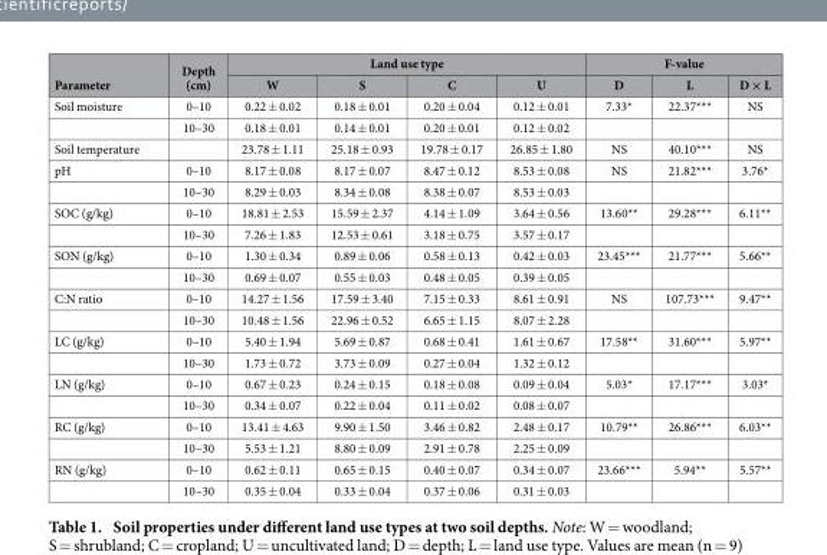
<table><thead><tr><td rowspan="2">Parameter</td><td rowspan="2">Depth (cm)</td><td colspan="4">Land use type</td><td colspan="3">F-value</td></tr><tr><td>W</td><td>S</td><td>C</td><td>U</td><td>D</td><td>L</td><td>D × L</td></tr></thead><tbody><tr><td rowspan="2">Soil moisture</td><td>0–10</td><td>0.22 ± 0.02</td><td>0.18 ± 0.01</td><td>0.20 ± 0.04</td><td>0.12 ± 0.01</td><td>7.33*</td><td>22.37***</td><td>NS</td></tr><tr><td>10–30</td><td>0.18 ± 0.01</td><td>0.14 ± 0.01</td><td>0.20 ± 0.01</td><td>0.12 ± 0.02</td><td></td><td></td><td></td></tr><tr><td>Soil temperature</td><td></td><td>23.78 ± 1.11</td><td>25.18 ± 0.93</td><td>19.78 ± 0.17</td><td>26.85 ± 1.80</td><td>NS</td><td>40.10***</td><td>NS</td></tr><tr><td rowspan="2">pH</td><td>0–10</td><td>8.17 ± 0.08</td><td>8.17 ± 0.07</td><td>8.47 ± 0.12</td><td>8.53 ± 0.08</td><td>NS</td><td>21.82***</td><td>3.76*</td></tr><tr><td>10–30</td><td>8.29 ± 0.03</td><td>8.34 ± 0.08</td><td>8.38 ± 0.07</td><td>8.53 ± 0.03</td><td></td><td></td><td></td></tr><tr><td rowspan="2">SOC (g/kg)</td><td>0–10</td><td>18.81 ± 2.53</td><td>15.59 ± 2.37</td><td>4.14 ± 1.09</td><td>3.64 ± 0.56</td><td>13.60**</td><td>29.28***</td><td>6.11**</td></tr><tr><td>10–30</td><td>7.26 ± 1.83</td><td>12.53 ± 0.61</td><td>3.18 ± 0.75</td><td>3.57 ± 0.17</td><td></td><td></td><td></td></tr><tr><td rowspan="2">SON (g/kg)</td><td>0–10</td><td>1.30 ± 0.34</td><td>0.89 ± 0.06</td><td>0.58 ± 0.13</td><td>0.42 ± 0.03</td><td>23.45***</td><td>21.77***</td><td>5.66**</td></tr><tr><td>10–30</td><td>0.69 ± 0.07</td><td>0.55 ± 0.03</td><td>0.48 ± 0.05</td><td>0.39 ± 0.05</td><td></td><td></td><td></td></tr><tr><td rowspan="2">C:N ratio</td><td>0–10</td><td>14.27 ± 1.56</td><td>17.59 ± 3.40</td><td>7.15 ± 0.33</td><td>8.61 ± 0.91</td><td>NS</td><td>107.73***</td><td>9.47**</td></tr><tr><td>10–30</td><td>10.48 ± 1.56</td><td>22.96 ± 0.52</td><td>6.65 ± 1.15</td><td>8.07 ± 2.28</td><td></td><td></td><td></td></tr><tr><td rowspan="2">LC (g/kg)</td><td>0–10</td><td>5.40 ± 1.94</td><td>5.69 ± 0.87</td><td>0.68 ± 0.41</td><td>1.61 ± 0.67</td><td>17.58**</td><td>31.60***</td><td>5.97**</td></tr><tr><td>10–30</td><td>1.73 ± 0.72</td><td>3.73 ± 0.09</td><td>0.27 ± 0.04</td><td>1.32 ± 0.12</td><td></td><td></td><td></td></tr><tr><td rowspan="2">LN (g/kg)</td><td>0–10</td><td>0.67 ± 0.23</td><td>0.24 ± 0.15</td><td>0.18 ± 0.08</td><td>0.09 ± 0.04</td><td>5.03*</td><td>17.17***</td><td>3.03*</td></tr><tr><td>10–30</td><td>0.34 ± 0.07</td><td>0.22 ± 0.04</td><td>0.11 ± 0.02</td><td>0.08 ± 0.07</td><td></td><td></td><td></td></tr><tr><td rowspan="2">RC (g/kg)</td><td>0–10</td><td>13.41 ± 4.63</td><td>9.90 ± 1.50</td><td>3.46 ± 0.82</td><td>2.48 ± 0.17</td><td>10.79**</td><td>26.86***</td><td>6.03**</td></tr><tr><td>10–30</td><td>5.53 ± 1.21</td><td>8.80 ± 0.09</td><td>2.91 ± 0.78</td><td>2.25 ± 0.09</td><td></td><td></td><td></td></tr><tr><td rowspan="2">RN (g/kg)</td><td>0–10</td><td>0.62 ± 0.11</td><td>0.65 ± 0.15</td><td>0.40 ± 0.07</td><td>0.34 ± 0.07</td><td>23.66***</td><td>5.94**</td><td>5.57**</td></tr><tr><td>10–30</td><td>0.35 ± 0.04</td><td>0.33 ± 0.04</td><td>0.37 ± 0.06</td><td>0.31 ± 0.03</td><td></td><td></td><td></td></tr></tbody></table>